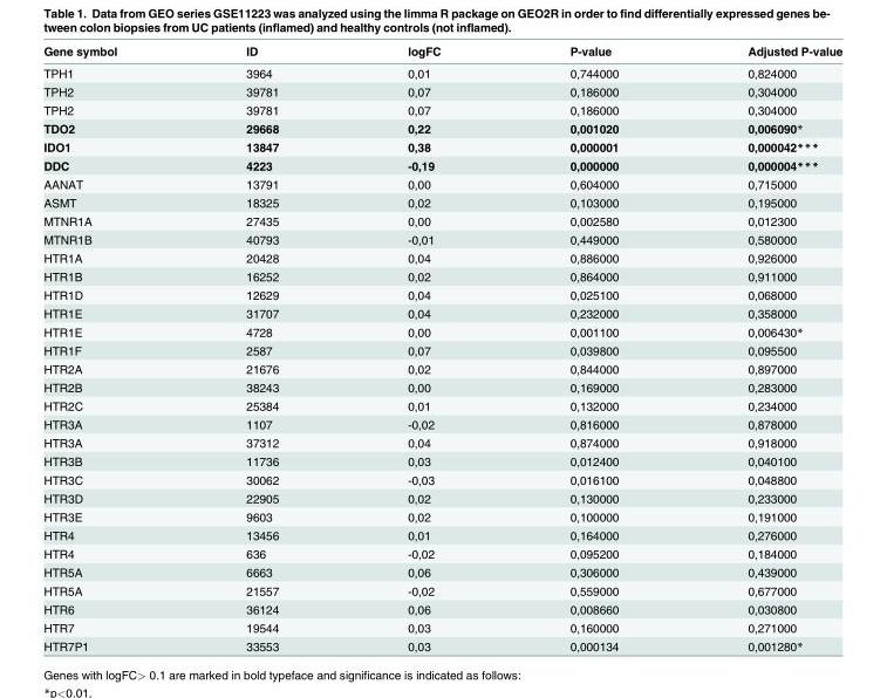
<table><thead><tr><td>Gene symbol</td><td>ID</td><td>logFC</td><td>P-value</td><td>Adjusted P-value</td></tr></thead><tbody><tr><td>TPH1</td><td>3964</td><td>0,01</td><td>0,744000</td><td>0,824000</td></tr><tr><td>TPH2</td><td>39781</td><td>0,07</td><td>0,186000</td><td>0,304000</td></tr><tr><td>TPH2</td><td>39781</td><td>0,07</td><td>0,186000</td><td>0,304000</td></tr><tr><td>TDO2</td><td>29668</td><td>0,22</td><td>0,001020</td><td>0,006090*</td></tr><tr><td>IDO1</td><td>13847</td><td>0,38</td><td>0,000001</td><td>0,000042***</td></tr><tr><td>DDC</td><td>4223</td><td>-0,19</td><td>0,000000</td><td>0,000004***</td></tr><tr><td>AANAT</td><td>13791</td><td>0,00</td><td>0,604000</td><td>0,715000</td></tr><tr><td>ASMT</td><td>18325</td><td>0,02</td><td>0,103000</td><td>0,195000</td></tr><tr><td>MTNR1A</td><td>27435</td><td>0,00</td><td>0,002580</td><td>0,012300</td></tr><tr><td>MTNR1B</td><td>40793</td><td>-0,01</td><td>0,449000</td><td>0,580000</td></tr><tr><td>HTR1A</td><td>20428</td><td>0,04</td><td>0,886000</td><td>0,926000</td></tr><tr><td>HTR1B</td><td>16252</td><td>0,02</td><td>0,864000</td><td>0,911000</td></tr><tr><td>HTR1D</td><td>12629</td><td>0,04</td><td>0,025100</td><td>0,068000</td></tr><tr><td>HTR1E</td><td>31707</td><td>0,04</td><td>0,232000</td><td>0,358000</td></tr><tr><td>HTR1E</td><td>4728</td><td>0,00</td><td>0,001100</td><td>0,006430*</td></tr><tr><td>HTR1F</td><td>2587</td><td>0,07</td><td>0,039800</td><td>0,095500</td></tr><tr><td>HTR2A</td><td>21676</td><td>0,02</td><td>0,844000</td><td>0,897000</td></tr><tr><td>HTR2B</td><td>38243</td><td>0,00</td><td>0,169000</td><td>0,283000</td></tr><tr><td>HTR2C</td><td>25384</td><td>0,01</td><td>0,132000</td><td>0,234000</td></tr><tr><td>HTR3A</td><td>1107</td><td>-0,02</td><td>0,816000</td><td>0,878000</td></tr><tr><td>HTR3A</td><td>37312</td><td>0,04</td><td>0,874000</td><td>0,918000</td></tr><tr><td>HTR3B</td><td>11736</td><td>0,03</td><td>0,012400</td><td>0,040100</td></tr><tr><td>HTR3C</td><td>30062</td><td>-0,03</td><td>0,016100</td><td>0,048800</td></tr><tr><td>HTR3D</td><td>22905</td><td>0,02</td><td>0,130000</td><td>0,233000</td></tr><tr><td>HTR3E</td><td>9603</td><td>0,02</td><td>0,100000</td><td>0,191000</td></tr><tr><td>HTR4</td><td>13456</td><td>0,01</td><td>0,164000</td><td>0,276000</td></tr><tr><td>HTR4</td><td>636</td><td>-0,02</td><td>0,095200</td><td>0,184000</td></tr><tr><td>HTR5A</td><td>6663</td><td>0,06</td><td>0,306000</td><td>0,439000</td></tr><tr><td>HTR5A</td><td>21557</td><td>-0,02</td><td>0,559000</td><td>0,677000</td></tr><tr><td>HTR6</td><td>36124</td><td>0,06</td><td>0,008660</td><td>0,030800</td></tr><tr><td>HTR7</td><td>19544</td><td>0,03</td><td>0,160000</td><td>0,271000</td></tr><tr><td>HTR7P1</td><td>33553</td><td>0,03</td><td>0,000134</td><td>0,001280*</td></tr></tbody></table>